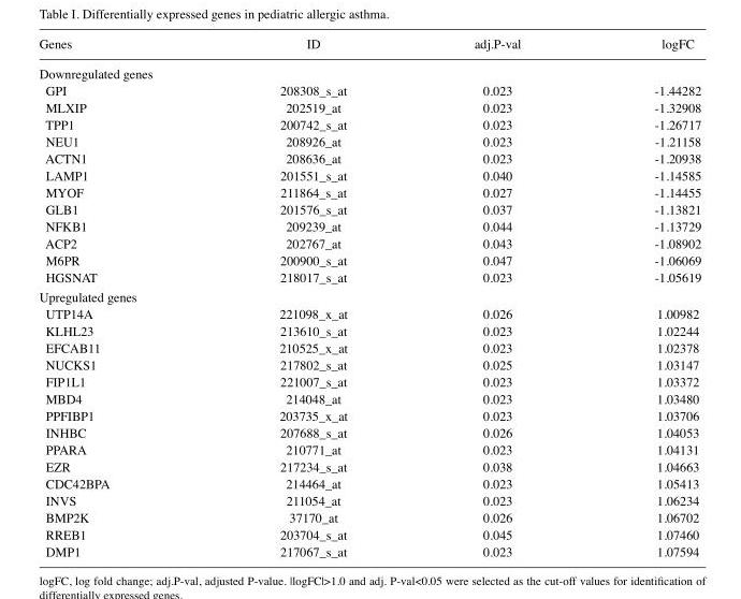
<table><thead><tr><td>Genes</td><td>ID</td><td>adj.P‑val</td><td>logFC</td></tr></thead><tbody><tr><td colspan="4">Downregulated genes</td></tr><tr><td>GPI</td><td>208308_s_at</td><td>0.023</td><td>-1.44282</td></tr><tr><td>MLXIP</td><td>202519_at</td><td>0.023</td><td>-1.32908</td></tr><tr><td>TPP1</td><td>200742_s_at</td><td>0.023</td><td>-1.26717</td></tr><tr><td>NEU1</td><td>208926_at</td><td>0.023</td><td>-1.21158</td></tr><tr><td>ACTN1</td><td>208636_at</td><td>0.023</td><td>-1.20938</td></tr><tr><td>LAMP1</td><td>201551_s_at</td><td>0.040</td><td>-1.14585</td></tr><tr><td>MYOF</td><td>211864_s_at</td><td>0.027</td><td>-1.14455</td></tr><tr><td>GLB1</td><td>201576_s_at</td><td>0.037</td><td>-1.13821</td></tr><tr><td>NFKB1</td><td>209239_at</td><td>0.044</td><td>-1.13729</td></tr><tr><td>ACP2</td><td>202767_at</td><td>0.043</td><td>-1.08902</td></tr><tr><td>M6PR</td><td>200900_s_at</td><td>0.047</td><td>-1.06069</td></tr><tr><td>HGSNAT</td><td>218017_s_at</td><td>0.023</td><td>-1.05619</td></tr><tr><td colspan="4">Upregulated genes</td></tr><tr><td>UTP14A</td><td>221098_x_at</td><td>0.026</td><td>1.00982</td></tr><tr><td>KLHL23</td><td>213610_s_at</td><td>0.023</td><td>1.02244</td></tr><tr><td>EFCAB11</td><td>210525_x_at</td><td>0.023</td><td>1.02378</td></tr><tr><td>NUCKS1</td><td>217802_s_at</td><td>0.025</td><td>1.03147</td></tr><tr><td>FIP1L1</td><td>221007_s_at</td><td>0.023</td><td>1.03372</td></tr><tr><td>MBD4</td><td>214048_at</td><td>0.023</td><td>1.03480</td></tr><tr><td>PPFIBP1</td><td>203735_x_at</td><td>0.023</td><td>1.03706</td></tr><tr><td>INHBC</td><td>207688_s_at</td><td>0.026</td><td>1.04053</td></tr><tr><td>PPARA</td><td>210771_at</td><td>0.023</td><td>1.04131</td></tr><tr><td>EZR</td><td>217234_s_at</td><td>0.038</td><td>1.04663</td></tr><tr><td>CDC42BPA</td><td>214464_at</td><td>0.023</td><td>1.05413</td></tr><tr><td>INVS</td><td>211054_at</td><td>0.023</td><td>1.06234</td></tr><tr><td>BMP2K</td><td>37170_at</td><td>0.026</td><td>1.06702</td></tr><tr><td>RREB1</td><td>203704_s_at</td><td>0.045</td><td>1.07460</td></tr><tr><td>DMP1</td><td>217067_s_at</td><td>0.023</td><td>1.07594</td></tr></tbody></table>